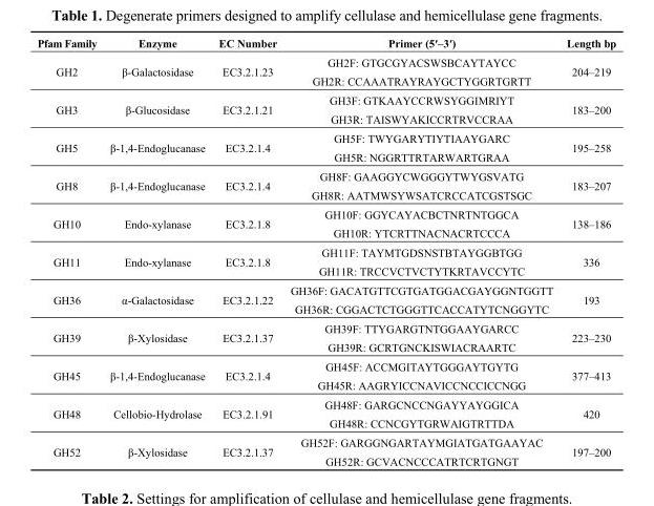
<table><thead><tr><td>Pfam Family</td><td>Enzyme</td><td>EC Number</td><td>Primer (5ʹ–3ʹ)</td><td>Length bp</td></tr></thead><tbody><tr><td rowspan="2">GH2</td><td rowspan="2">β-Galactosidase</td><td rowspan="2">EC3.2.1.23</td><td>GH2F: GTGCGYACSWSBCAYTAYCC</td><td rowspan="2">204–219</td></tr><tr><td>GH2R: CCAAATRAYRAYGCTYGGRTGRTT</td></tr><tr><td rowspan="2">GH3</td><td rowspan="2">β-Glucosidase</td><td rowspan="2">EC3.2.1.21</td><td>GH3F: GTKAAYCCRWSYGGIMRIYT</td><td rowspan="2">183–200</td></tr><tr><td>GH3R: TAISWYAKICCRTRVCCRAA</td></tr><tr><td rowspan="2">GH5</td><td rowspan="2">β-1,4-Endoglucanase</td><td rowspan="2">EC3.2.1.4</td><td>GH5F: TWYGARYTIYTIAAYGARC</td><td rowspan="2">195–258</td></tr><tr><td>GH5R: NGGRTTRTARWARTGRAA</td></tr><tr><td rowspan="2">GH8</td><td rowspan="2">β-1,4-Endoglucanase</td><td rowspan="2">EC3.2.1.4</td><td>GH8F: GAAGGYCWGGGYTWYGSVATG</td><td rowspan="2">183–207</td></tr><tr><td>GH8R: AATMWSYWSATCRCCATCGSTSGC</td></tr><tr><td rowspan="2">GH10</td><td rowspan="2">Endo-xylanase</td><td rowspan="2">EC3.2.1.8</td><td>GH10F: GGYCAYACBCTNRTNTGGCA</td><td rowspan="2">138–186</td></tr><tr><td>GH10R: YTCRTTNACNACRTCCCA</td></tr><tr><td rowspan="2">GH11</td><td rowspan="2">Endo-xylanase</td><td rowspan="2">EC3.2.1.8</td><td>GH11F: TAYMTGDSNSTBTAYGGBTGG</td><td rowspan="2">336</td></tr><tr><td>GH11R: TRCCVCTVCTYTKRTAVCCYTC</td></tr><tr><td rowspan="2">GH36</td><td rowspan="2">α-Galactosidase</td><td rowspan="2">EC3.2.1.22</td><td>GH36F: GACATGTTCGTGATGGACGAYGGNTGGTT</td><td rowspan="2">193</td></tr><tr><td>GH36R: CGGACTCTGGGTTCACCATYTCNGGYTC</td></tr><tr><td rowspan="2">GH39</td><td rowspan="2">β-Xylosidase</td><td rowspan="2">EC3.2.1.37</td><td>GH39F: TTYGARGTNTGGAAYGARCC</td><td rowspan="2">223–230</td></tr><tr><td>GH39R: GCRTGNCKISWIACRAARTC</td></tr><tr><td rowspan="2">GH45</td><td rowspan="2">β-1,4-Endoglucanase</td><td rowspan="2">EC3.2.1.4</td><td>GH45F: ACCMGITAYTGGGAYTGYTG</td><td rowspan="2">377–413</td></tr><tr><td>GH45R: AAGRYICCNAVICCNCCICCNGG</td></tr><tr><td rowspan="2">GH48</td><td rowspan="2">Cellobio-Hydrolase</td><td rowspan="2">EC3.2.1.91</td><td>GH48F: GARGCNCCNGAYYAYGGICA</td><td rowspan="2">420</td></tr><tr><td>GH48R: CCNCGYTGRWAIGTRTTDA</td></tr><tr><td rowspan="2">GH52</td><td rowspan="2">β-Xylosidase</td><td rowspan="2">EC3.2.1.37</td><td>GH52F: GARGGNGARTAYMGIATGATGAAYAC</td><td rowspan="2">197–200</td></tr><tr><td>GH52R: GCVACNCCCATRTCRTGNGT</td></tr></tbody></table>